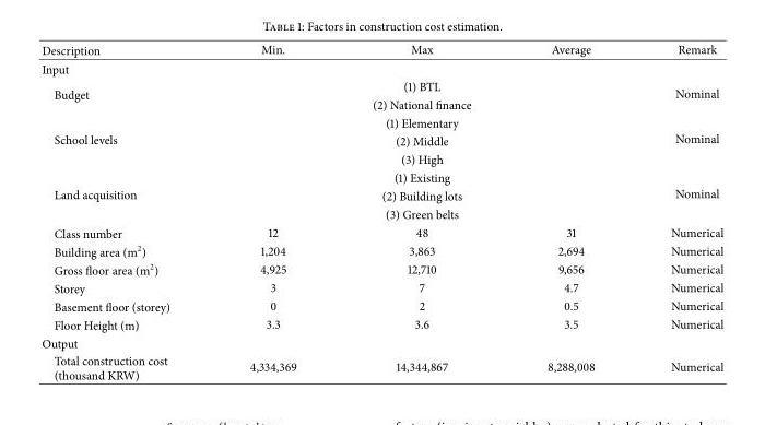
<table><thead><tr><td>Description</td><td>Min.</td><td>Max</td><td>Average</td><td>Remark</td></tr></thead><tbody><tr><td colspan="5">Input</td></tr><tr><td rowspan="2">Budget</td><td></td><td>(1) BTL</td><td></td><td rowspan="2">Nominal</td></tr><tr><td></td><td>(2) National finance</td><td></td></tr><tr><td rowspan="3">School levels</td><td></td><td>(1) Elementary</td><td></td><td rowspan="3">Nominal</td></tr><tr><td></td><td>(2) Middle</td><td></td></tr><tr><td></td><td>(3) High</td><td></td></tr><tr><td rowspan="3">Land acquisition</td><td></td><td>(1) Existing</td><td></td><td rowspan="3">Nominal</td></tr><tr><td></td><td>(2) Building lots</td><td></td></tr><tr><td></td><td>(3) Green belts</td><td></td></tr><tr><td>Class number</td><td>12</td><td>48</td><td>31</td><td>Numerical</td></tr><tr><td>Building area (m<sup>2</sup>)</td><td>1,204</td><td>3,863</td><td>2,694</td><td>Numerical</td></tr><tr><td>Gross floor area (m<sup>2</sup>)</td><td>4,925</td><td>12,710</td><td>9,656</td><td>Numerical</td></tr><tr><td>Storey</td><td>3</td><td>7</td><td>4.7</td><td>Numerical</td></tr><tr><td>Basement floor (storey)</td><td>0</td><td>2</td><td>0.5</td><td>Numerical</td></tr><tr><td>Floor Height (m)</td><td>3.3</td><td>3.6</td><td>3.5</td><td>Numerical</td></tr><tr><td colspan="5">Output</td></tr><tr><td>Total construction cost (thousand KRW)</td><td>4,334,369</td><td>14,344,867</td><td>8,288,008</td><td>Numerical</td></tr></tbody></table>